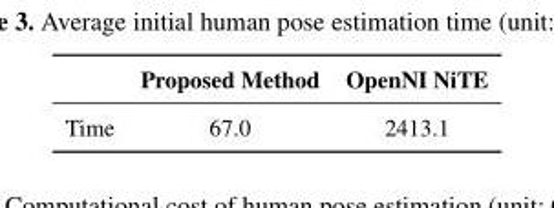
<table><thead><tr><td></td><td>Proposed Method</td><td>OpenNI NiTE</td></tr></thead><tbody><tr><td>Time</td><td>67.0</td><td>2413.1</td></tr></tbody></table>